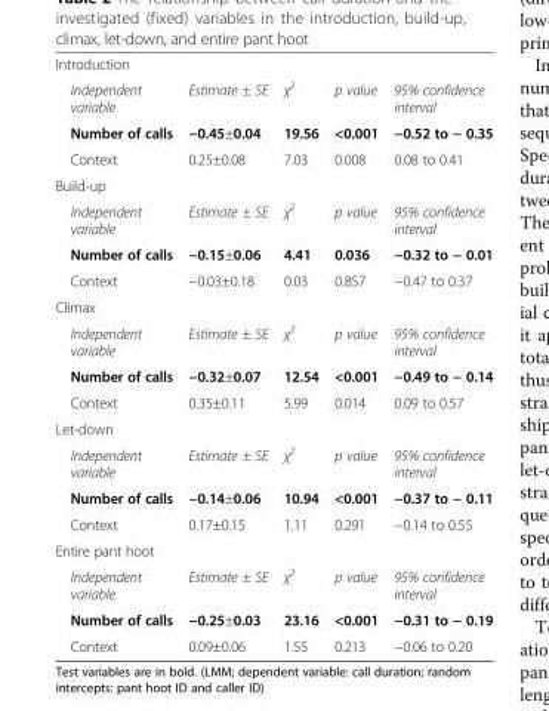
<table><tbody><tr><td colspan="5">Introduction</td></tr><tr><td>Independent variable</td><td>Estimate ± SE</td><td>χ<sup>2</sup></td><td>p value</td><td>95% confidence interval</td></tr><tr><td>Number of calls</td><td>−0.45±0.04</td><td>19.56</td><td>&lt;0.001</td><td>−0.52 to − 0.35</td></tr><tr><td>Context</td><td>0.25±0.08</td><td>7.03</td><td>0.008</td><td>0.08 to 0.41</td></tr><tr><td colspan="5">Build-up</td></tr><tr><td>Independent variable</td><td>Estimate ± SE</td><td>χ<sup>2</sup></td><td>p value</td><td>95% confidence interval</td></tr><tr><td>Number of calls</td><td>−0.15±0.06</td><td>4.41</td><td>0.036</td><td>−0.32 to − 0.01</td></tr><tr><td>Context</td><td>−0.03±0.18</td><td>0.03</td><td>0.857</td><td>−0.47 to 0.37</td></tr><tr><td colspan="5">Climax</td></tr><tr><td>Independent variable</td><td>Estimate ± SE</td><td>χ<sup>2</sup></td><td>p value</td><td>95% confidence interval</td></tr><tr><td>Number of calls</td><td>−0.32±0.07</td><td>12.54</td><td>&lt;0.001</td><td>−0.49 to − 0.14</td></tr><tr><td>Context</td><td>0.35±0.11</td><td>5.99</td><td>0.014</td><td>0.09 to 0.57</td></tr><tr><td colspan="5">Let-down</td></tr><tr><td>Independent variable</td><td>Estimate ± SE</td><td>χ<sup>2</sup></td><td>p value</td><td>95% confidence interval</td></tr><tr><td>Number of calls</td><td>−0.14±0.06</td><td>10.94</td><td>&lt;0.001</td><td>−0.37 to − 0.11</td></tr><tr><td>Context</td><td>0.17±0.15</td><td>1.11</td><td>0.291</td><td>−0.14 to 0.55</td></tr><tr><td colspan="5">Entire pant hoot</td></tr><tr><td>Independent variable</td><td>Estimate ± SE</td><td>χ<sup>2</sup></td><td>p value</td><td>95% confidence interval</td></tr><tr><td>Number of calls</td><td>−0.25±0.03</td><td>23.16</td><td>&lt;0.001</td><td>−0.31 to − 0.19</td></tr><tr><td>Context</td><td>0.09±0.06</td><td>1.55</td><td>0.213</td><td>−0.06 to 0.20</td></tr></tbody></table>